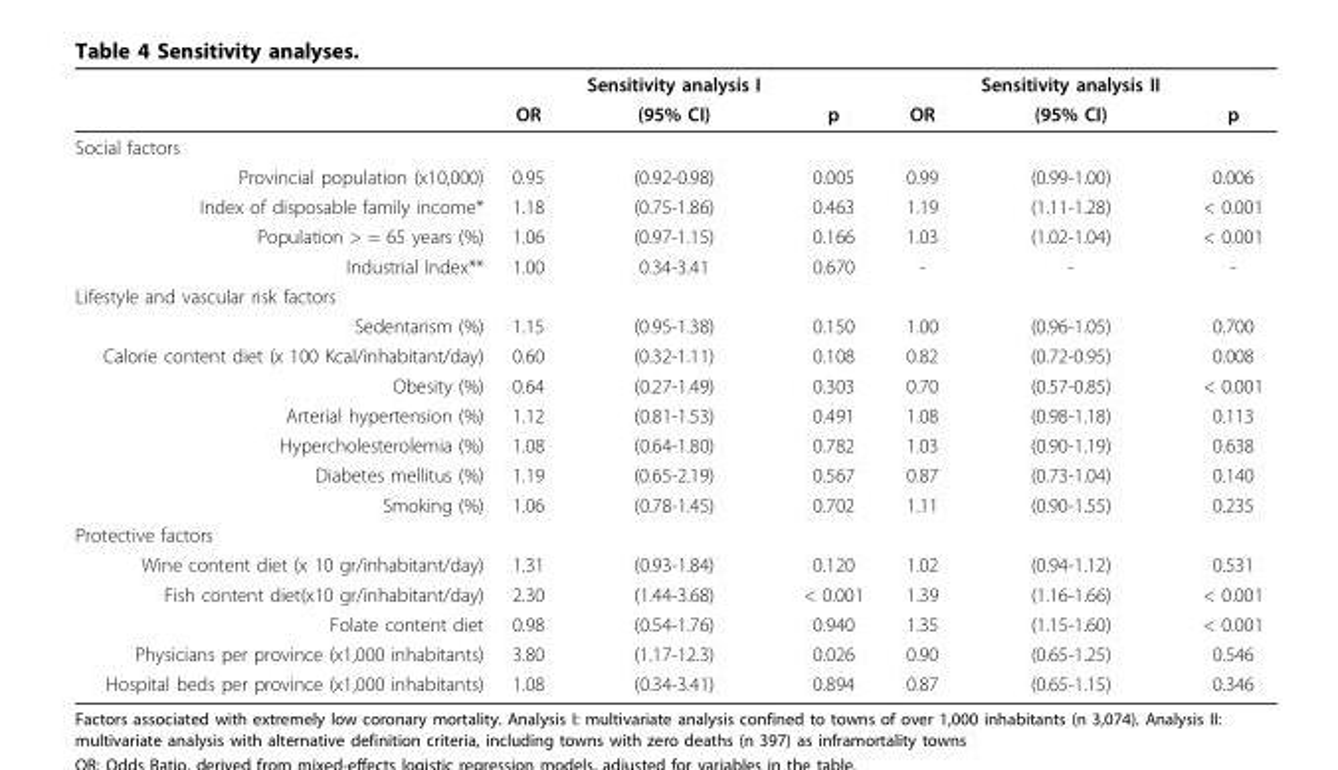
<table><thead><tr><td rowspan="2"></td><td rowspan="2">OR</td><td rowspan="2">Sensitivity analysis I (95% CI)</td><td rowspan="2">p</td><td rowspan="2">OR</td><td rowspan="2">Sensitivity analysis II (95% CI)</td><td rowspan="2">p</td></tr><tr></tr></thead><tbody><tr><td colspan="7">Social factors</td></tr><tr><td>Provincial population (x10,000)</td><td>0.95</td><td>(0.92-0.98)</td><td>0.005</td><td>0.99</td><td>(0.99-1.00)</td><td>0.006</td></tr><tr><td>Index of disposable family income*</td><td>1.18</td><td>(0.75-1.86)</td><td>0.463</td><td>1.19</td><td>(1.11-1.28)</td><td>&lt; 0.001</td></tr><tr><td>Population &gt; = 65 years (%)</td><td>1.06</td><td>(0.97-1.15)</td><td>0.166</td><td>1.03</td><td>(1.02-1.04)</td><td>&lt; 0.001</td></tr><tr><td>Industrial Index**</td><td>1.00</td><td>0.34-3.41</td><td>0.670</td><td>-</td><td>-</td><td>-</td></tr><tr><td colspan="7">Lifestyle and vascular risk factors</td></tr><tr><td>Sedentarism (%)</td><td>1.15</td><td>(0.95-1.38)</td><td>0.150</td><td>1.00</td><td>(0.96-1.05)</td><td>0.700</td></tr><tr><td>Calorie content diet (x 100 Kcal/inhabitant/day)</td><td>0.60</td><td>(0.32-1.11)</td><td>0.108</td><td>0.82</td><td>(0.72-0.95)</td><td>0.008</td></tr><tr><td>Obesity (%)</td><td>0.64</td><td>(0.27-1.49)</td><td>0.303</td><td>0.70</td><td>(0.57-0.85)</td><td>&lt; 0.001</td></tr><tr><td>Arterial hypertension (%)</td><td>1.12</td><td>(0.81-1.53)</td><td>0.491</td><td>1.08</td><td>(0.98-1.18)</td><td>0.113</td></tr><tr><td>Hypercholesterolemia (%)</td><td>1.08</td><td>(0.64-1.80)</td><td>0.782</td><td>1.03</td><td>(0.90-1.19)</td><td>0.638</td></tr><tr><td>Diabetes mellitus (%)</td><td>1.19</td><td>(0.65-2.19)</td><td>0.567</td><td>0.87</td><td>(0.73-1.04)</td><td>0.140</td></tr><tr><td>Smoking (%)</td><td>1.06</td><td>(0.78-1.45)</td><td>0.702</td><td>1.11</td><td>(0.90-1.55)</td><td>0.235</td></tr><tr><td colspan="7">Protective factors</td></tr><tr><td>Wine content diet (x 10 gr/inhabitant/day)</td><td>1.31</td><td>(0.93-1.84)</td><td>0.120</td><td>1.02</td><td>(0.94-1.12)</td><td>0.531</td></tr><tr><td>Fish content diet(x10 gr/inhabitant/day)</td><td>2.30</td><td>(1.44-3.68)</td><td>&lt; 0.001</td><td>1.39</td><td>(1.16-1.66)</td><td>&lt; 0.001</td></tr><tr><td>Folate content diet</td><td>0.98</td><td>(0.54-1.76)</td><td>0.940</td><td>1.35</td><td>(1.15-1.60)</td><td>&lt; 0.001</td></tr><tr><td>Physicians per province (x1,000 inhabitants)</td><td>3.80</td><td>(1.17-12.3)</td><td>0.026</td><td>0.90</td><td>(0.65-1.25)</td><td>0.546</td></tr><tr><td>Hospital beds per province (x1,000 inhabitants)</td><td>1.08</td><td>(0.34-3.41)</td><td>0.894</td><td>0.87</td><td>(0.65-1.15)</td><td>0.346</td></tr></tbody></table>